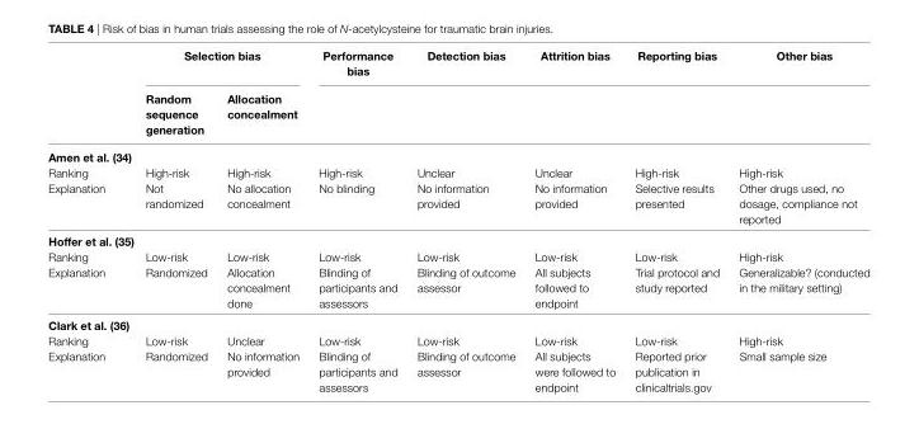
<table><thead><tr><td rowspan="2"></td><td colspan="2">Selection bias</td><td rowspan="2">Performance bias</td><td rowspan="2">Detection bias</td><td rowspan="2">attrition bias</td><td rowspan="2">Reporting bias</td><td rowspan="2">Other bias</td></tr><tr><td>Random sequence generation</td><td>allocation concealment</td></tr></thead><tbody><tr><td colspan="8">amen et al. (34)</td></tr><tr><td>Ranking</td><td>High-risk</td><td>High-risk</td><td>High-risk</td><td>Unclear</td><td>Unclear</td><td>High-risk</td><td>High-risk</td></tr><tr><td>Explanation</td><td>Not randomized</td><td>No allocation concealment</td><td>No blinding</td><td>No information provided</td><td>No information provided</td><td>Selective results presented</td><td>Other drugs used, no dosage, compliance not reported</td></tr><tr><td colspan="8">Hoffer et al. (35)</td></tr><tr><td>Ranking</td><td>Low-risk</td><td>Low-risk</td><td>Low-risk</td><td>Low-risk</td><td>Low-risk</td><td>Low-risk</td><td>High-risk</td></tr><tr><td>Explanation</td><td>Randomized</td><td>Allocation concealment done</td><td>Blinding of participants and assessors</td><td>Blinding of outcome assessor</td><td>All subjects followed to endpoint</td><td>Trial protocol and study reported</td><td>Generalizable? (conducted in the military setting)</td></tr><tr><td colspan="8">clark et al. (36)</td></tr><tr><td>Ranking</td><td>Low-risk</td><td>Unclear</td><td>Low-risk</td><td>Low-risk</td><td>Low-risk</td><td>Low-risk</td><td>High-risk</td></tr><tr><td>Explanation</td><td>Randomized</td><td>No information provided</td><td>Blinding of participants and assessors</td><td>Blinding of outcome assessor</td><td>All subjects were followed to endpoint</td><td>Reported prior publication in clinicaltrials.gov</td><td>Small sample size</td></tr></tbody></table>